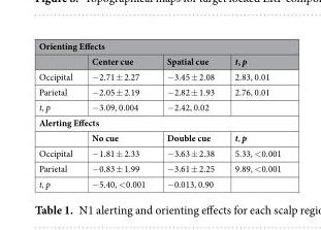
<table><thead><tr><td colspan="4">Orienting Effects</td></tr><tr><td></td><td>Center cue</td><td>Spatial cue</td><td>t, p</td></tr></thead><tbody><tr><td>Occipital</td><td>−2.71 ± 2.27</td><td>−3.45 ± 2.08</td><td>2.83, 0.01</td></tr><tr><td>Parietal</td><td>−2.05 ± 2.19</td><td>−2.82 ± 1.93</td><td>2.76, 0.01</td></tr><tr><td>t, p</td><td>−3.09, 0.004</td><td>−2.42, 0.02</td><td></td></tr><tr><td colspan="4">Alerting Effects</td></tr><tr><td></td><td>No cue</td><td>Double cue</td><td>t, p</td></tr><tr><td>Occipital</td><td>−1.81 ± 2.33</td><td>−3.63 ± 2.38</td><td>5.33, &lt;0.001</td></tr><tr><td>Parietal</td><td>−0.83 ± 1.99</td><td>−3.61 ± 2.25</td><td>9.89, &lt;0.001</td></tr><tr><td>t, p</td><td>−5.40, &lt;0.001</td><td>−0.013, 0.90</td><td></td></tr></tbody></table>